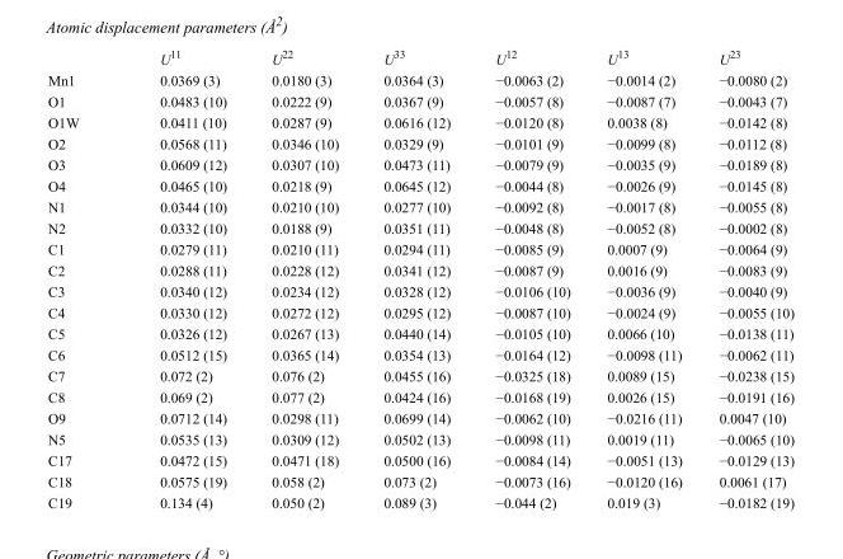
<table><thead><tr><td></td><td>U<sup>11</sup></td><td>U<sup>22</sup></td><td>U<sup>33</sup></td><td>U<sup>12</sup></td><td>U<sup>13</sup></td><td>U<sup>23</sup></td></tr></thead><tbody><tr><td>Mn1</td><td>0.0369 (3)</td><td>0.0180 (3)</td><td>0.0364 (3)</td><td>−0.0063 (2)</td><td>−0.0014 (2)</td><td>−0.0080 (2)</td></tr><tr><td>O1</td><td>0.0483 (10)</td><td>0.0222 (9)</td><td>0.0367 (9)</td><td>−0.0057 (8)</td><td>−0.0087 (7)</td><td>−0.0043 (7)</td></tr><tr><td>O1W</td><td>0.0411 (10)</td><td>0.0287 (9)</td><td>0.0616 (12)</td><td>−0.0120 (8)</td><td>0.0038 (8)</td><td>−0.0142 (8)</td></tr><tr><td>O2</td><td>0.0568 (11)</td><td>0.0346 (10)</td><td>0.0329 (9)</td><td>−0.0101 (9)</td><td>−0.0099 (8)</td><td>−0.0112 (8)</td></tr><tr><td>O3</td><td>0.0609 (12)</td><td>0.0307 (10)</td><td>0.0473 (11)</td><td>−0.0079 (9)</td><td>−0.0035 (9)</td><td>−0.0189 (8)</td></tr><tr><td>O4</td><td>0.0465 (10)</td><td>0.0218 (9)</td><td>0.0645 (12)</td><td>−0.0044 (8)</td><td>−0.0026 (9)</td><td>−0.0145 (8)</td></tr><tr><td>N1</td><td>0.0344 (10)</td><td>0.0210 (10)</td><td>0.0277 (10)</td><td>−0.0092 (8)</td><td>−0.0017 (8)</td><td>−0.0055 (8)</td></tr><tr><td>N2</td><td>0.0332 (10)</td><td>0.0188 (9)</td><td>0.0351 (11)</td><td>−0.0048 (8)</td><td>−0.0052 (8)</td><td>−0.0002 (8)</td></tr><tr><td>C1</td><td>0.0279 (11)</td><td>0.0210 (11)</td><td>0.0294 (11)</td><td>−0.0085 (9)</td><td>0.0007 (9)</td><td>−0.0064 (9)</td></tr><tr><td>C2</td><td>0.0288 (11)</td><td>0.0228 (12)</td><td>0.0341 (12)</td><td>−0.0087 (9)</td><td>0.0016 (9)</td><td>−0.0083 (9)</td></tr><tr><td>C3</td><td>0.0340 (12)</td><td>0.0234 (12)</td><td>0.0328 (12)</td><td>−0.0106 (10)</td><td>−0.0036 (9)</td><td>−0.0040 (9)</td></tr><tr><td>C4</td><td>0.0330 (12)</td><td>0.0272 (12)</td><td>0.0295 (12)</td><td>−0.0087 (10)</td><td>−0.0024 (9)</td><td>−0.0055 (10)</td></tr><tr><td>C5</td><td>0.0326 (12)</td><td>0.0267 (13)</td><td>0.0440 (14)</td><td>−0.0105 (10)</td><td>0.0066 (10)</td><td>−0.0138 (11)</td></tr><tr><td>C6</td><td>0.0512 (15)</td><td>0.0365 (14)</td><td>0.0354 (13)</td><td>−0.0164 (12)</td><td>−0.0098 (11)</td><td>−0.0062 (11)</td></tr><tr><td>C7</td><td>0.072 (2)</td><td>0.076 (2)</td><td>0.0455 (16)</td><td>−0.0325 (18)</td><td>0.0089 (15)</td><td>−0.0238 (15)</td></tr><tr><td>C8</td><td>0.069 (2)</td><td>0.077 (2)</td><td>0.0424 (16)</td><td>−0.0168 (19)</td><td>0.0026 (15)</td><td>−0.0191 (16)</td></tr><tr><td>O9</td><td>0.0712 (14)</td><td>0.0298 (11)</td><td>0.0699 (14)</td><td>−0.0062 (10)</td><td>−0.0216 (11)</td><td>0.0047 (10)</td></tr><tr><td>N5</td><td>0.0535 (13)</td><td>0.0309 (12)</td><td>0.0502 (13)</td><td>−0.0098 (11)</td><td>0.0019 (11)</td><td>−0.0065 (10)</td></tr><tr><td>C17</td><td>0.0472 (15)</td><td>0.0471 (18)</td><td>0.0500 (16)</td><td>−0.0084 (14)</td><td>−0.0051 (13)</td><td>−0.0129 (13)</td></tr><tr><td>C18</td><td>0.0575 (19)</td><td>0.058 (2)</td><td>0.073 (2)</td><td>−0.0073 (16)</td><td>−0.0120 (16)</td><td>0.0061 (17)</td></tr><tr><td>C19</td><td>0.134 (4)</td><td>0.050 (2)</td><td>0.089 (3)</td><td>−0.044 (2)</td><td>0.019 (3)</td><td>−0.0182 (19)</td></tr></tbody></table>